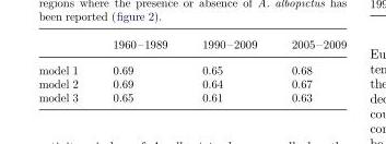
<table><thead><tr><td></td><td>1960–1989</td><td>1990–2009</td><td>2005–2009</td></tr></thead><tbody><tr><td>model 1</td><td>0.69</td><td>0.65</td><td>0.68</td></tr><tr><td>model 2</td><td>0.69</td><td>0.64</td><td>0.67</td></tr><tr><td>model 3</td><td>0.65</td><td>0.61</td><td>0.63</td></tr></tbody></table>